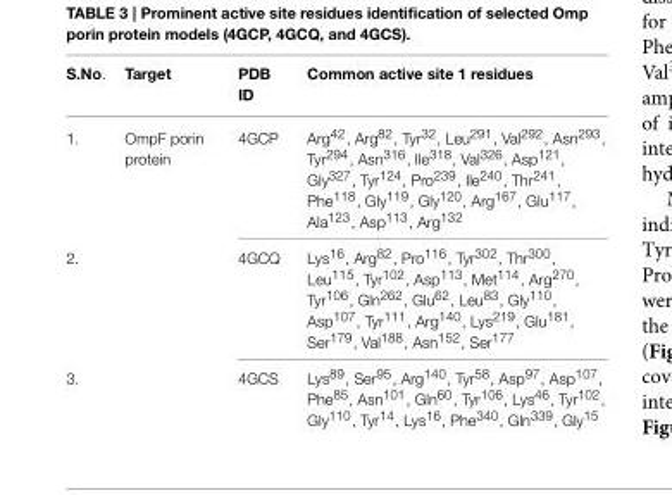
<table><thead><tr><td>S.No.</td><td>Target</td><td>PDB ID</td><td>Common active site 1 residues</td></tr></thead><tbody><tr><td>1.</td><td>OmpF porin protein</td><td>4GCP</td><td>Arg<sup>42</sup>, Arg<sup>82</sup>, Tyr<sup>32</sup>, Leu<sup>291</sup>, Val<sup>292</sup>, Asn<sup>293</sup>, Tyr<sup>294</sup>, Asn<sup>316</sup>, Ile<sup>318</sup>, Val<sup>326</sup>, Asp<sup>121</sup>, Gly<sup>327</sup>, Tyr<sup>124</sup>, Pro<sup>239</sup>, Ile<sup>240</sup>, Thr<sup>241</sup>, Phe<sup>118</sup>, Gly<sup>119</sup>, Gly<sup>120</sup>, Arg<sup>167</sup>, Glu<sup>117</sup>, Ala<sup>123</sup>, Asp<sup>113</sup>, Arg<sup>132</sup></td></tr><tr><td>2.</td><td></td><td>4GCQ</td><td>Lys<sup>16</sup>, Arg<sup>82</sup>, Pro<sup>116</sup>, Tyr<sup>302</sup>, Thr<sup>300</sup>, Leu<sup>115</sup>, Tyr<sup>102</sup>, Asp<sup>113</sup>, Met<sup>114</sup>, Arg<sup>270</sup>, Tyr<sup>106</sup>, Gln<sup>262</sup>, Glu<sup>62</sup>, Leu<sup>83</sup>, Gly<sup>110</sup>, Asp<sup>107</sup>, Tyr<sup>111</sup>, Arg<sup>140</sup>, Lys<sup>219</sup>, Glu<sup>181</sup>, Ser<sup>179</sup>, Val<sup>188</sup>, Asn<sup>152</sup>, Ser<sup>177</sup></td></tr><tr><td>3.</td><td></td><td>4GCS</td><td>Lys<sup>89</sup>, Ser<sup>95</sup>, Arg<sup>140</sup>, Tyr<sup>58</sup>, Asp<sup>97</sup>, Asp<sup>107</sup>, Phe<sup>85</sup>, Asn<sup>101</sup>, Gln<sup>60</sup>, Tyr<sup>106</sup>, Lys<sup>46</sup>, Tyr<sup>102</sup>, Gly<sup>110</sup>, Tyr<sup>14</sup>, Lys<sup>16</sup>, Phe<sup>340</sup>, Gln<sup>339</sup>, Gly<sup>15</sup></td></tr></tbody></table>